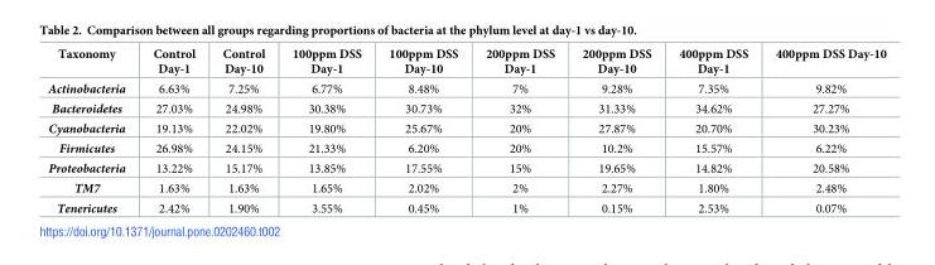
<table><thead><tr><td>Taxonomy</td><td>Control Day-1</td><td>Control Day-10</td><td>100ppm DSS Day-1</td><td>100ppm DSS Day-10</td><td>200ppm DSS Day-1</td><td>200ppm DSS Day-10</td><td>400ppm DSS Day-1</td><td>400ppm DSS Day-10</td></tr></thead><tbody><tr><td>Actinobacteria</td><td>6.63%</td><td>7.25%</td><td>6.77%</td><td>8.48%</td><td>7%</td><td>9.28%</td><td>7.35%</td><td>9.82%</td></tr><tr><td>Bacteroidetes</td><td>27.03%</td><td>24.98%</td><td>30.38%</td><td>30.73%</td><td>32%</td><td>31.33%</td><td>34.62%</td><td>27.27%</td></tr><tr><td>Cyanobacteria</td><td>19.13%</td><td>22.02%</td><td>19.80%</td><td>25.67%</td><td>20%</td><td>27.87%</td><td>20.70%</td><td>30.23%</td></tr><tr><td>Firmicutes</td><td>26.98%</td><td>24.15%</td><td>21.33%</td><td>6.20%</td><td>20%</td><td>10.2%</td><td>15.57%</td><td>6.22%</td></tr><tr><td>Proteobacteria</td><td>13.22%</td><td>15.17%</td><td>13.85%</td><td>17.55%</td><td>15%</td><td>19.65%</td><td>14.82%</td><td>20.58%</td></tr><tr><td>TM7</td><td>1.63%</td><td>1.63%</td><td>1.65%</td><td>2.02%</td><td>2%</td><td>2.27%</td><td>1.80%</td><td>2.48%</td></tr><tr><td>Tenericutes</td><td>2.42%</td><td>1.90%</td><td>3.55%</td><td>0.45%</td><td>1%</td><td>0.15%</td><td>2.53%</td><td>0.07%</td></tr></tbody></table>